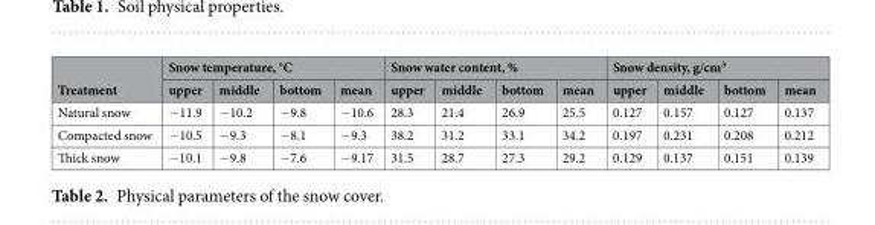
<table><thead><tr><td rowspan="2">Treatment</td><td colspan="4">Snow temperature, °C</td><td colspan="4">Snow water content, %</td><td colspan="4">Snow density, g/cm<sup>3</sup></td></tr><tr><td>upper</td><td>middle</td><td>bottom</td><td>mean</td><td>upper</td><td>middle</td><td>bottom</td><td>mean</td><td>upper</td><td>middle</td><td>bottom</td><td>mean</td></tr></thead><tbody><tr><td>Natural snow</td><td>−11.9</td><td>−10.2</td><td>−9.8</td><td>−10.6</td><td>28.3</td><td>21.4</td><td>26.9</td><td>25.5</td><td>0.127</td><td>0.157</td><td>0.127</td><td>0.137</td></tr><tr><td>Compacted snow</td><td>−10.5</td><td>−9.3</td><td>−8.1</td><td>−9.3</td><td>38.2</td><td>31.2</td><td>33.1</td><td>34.2</td><td>0.197</td><td>0.231</td><td>0.208</td><td>0.212</td></tr><tr><td>Thick snow</td><td>−10.1</td><td>−9.8</td><td>−7.6</td><td>−9.17</td><td>31.5</td><td>28.7</td><td>27.3</td><td>29.2</td><td>0.129</td><td>0.137</td><td>0.151</td><td>0.139</td></tr></tbody></table>